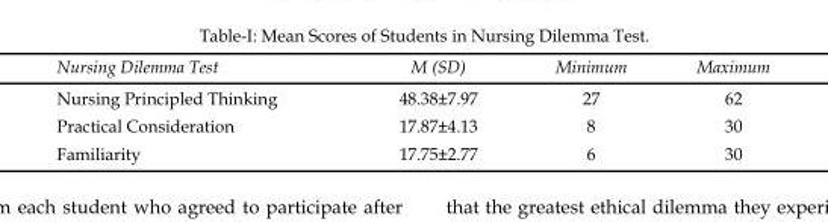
<table><thead><tr><td>Nursing Dilemma Test</td><td>M (SD)</td><td>Minimum</td><td>Maximum</td></tr></thead><tbody><tr><td>Nursing Principled Thinking</td><td>48.38±7.97</td><td>27</td><td>62</td></tr><tr><td>Practical Consideration</td><td>17.87±4.13</td><td>8</td><td>30</td></tr><tr><td>Familiarity</td><td>17.75±2.77</td><td>6</td><td>30</td></tr></tbody></table>